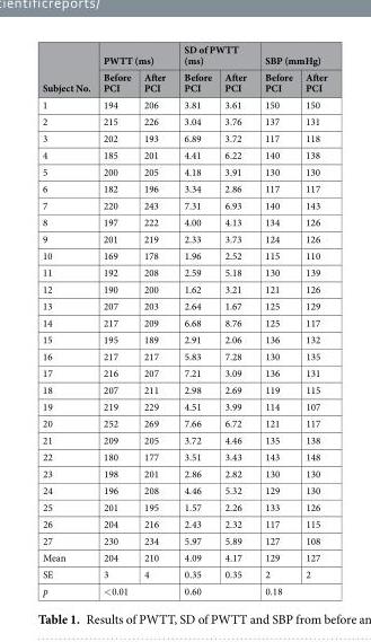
<table><thead><tr><td rowspan="2">Subject No.</td><td colspan="2">PWTT (ms)</td><td colspan="2">SD of PWTT (ms)</td><td colspan="2">SBP (mmHg)</td></tr><tr><td>Before PCI</td><td>After PCI</td><td>Before PCI</td><td>After PCI</td><td>Before PCI</td><td>After PCI</td></tr></thead><tbody><tr><td>1</td><td>194</td><td>206</td><td>3.81</td><td>3.61</td><td>150</td><td>150</td></tr><tr><td>2</td><td>215</td><td>226</td><td>3.04</td><td>3.76</td><td>137</td><td>131</td></tr><tr><td>3</td><td>202</td><td>193</td><td>6.89</td><td>3.72</td><td>117</td><td>118</td></tr><tr><td>4</td><td>185</td><td>201</td><td>4.41</td><td>6.22</td><td>140</td><td>138</td></tr><tr><td>5</td><td>200</td><td>205</td><td>4.18</td><td>3.91</td><td>130</td><td>130</td></tr><tr><td>6</td><td>182</td><td>196</td><td>3.34</td><td>2.86</td><td>117</td><td>117</td></tr><tr><td>7</td><td>220</td><td>243</td><td>7.31</td><td>6.93</td><td>140</td><td>143</td></tr><tr><td>8</td><td>197</td><td>222</td><td>4.00</td><td>4.13</td><td>134</td><td>126</td></tr><tr><td>9</td><td>201</td><td>219</td><td>2.33</td><td>3.73</td><td>124</td><td>126</td></tr><tr><td>10</td><td>169</td><td>178</td><td>1.96</td><td>2.52</td><td>115</td><td>110</td></tr><tr><td>11</td><td>192</td><td>208</td><td>2.59</td><td>5.18</td><td>130</td><td>139</td></tr><tr><td>12</td><td>190</td><td>200</td><td>1.62</td><td>3.21</td><td>121</td><td>126</td></tr><tr><td>13</td><td>207</td><td>203</td><td>2.64</td><td>1.67</td><td>125</td><td>129</td></tr><tr><td>14</td><td>217</td><td>209</td><td>6.68</td><td>8.76</td><td>125</td><td>117</td></tr><tr><td>15</td><td>195</td><td>189</td><td>2.91</td><td>2.06</td><td>136</td><td>132</td></tr><tr><td>16</td><td>217</td><td>217</td><td>5.83</td><td>7.28</td><td>130</td><td>135</td></tr><tr><td>17</td><td>216</td><td>207</td><td>7.21</td><td>3.09</td><td>136</td><td>131</td></tr><tr><td>18</td><td>207</td><td>211</td><td>2.98</td><td>2.69</td><td>119</td><td>115</td></tr><tr><td>19</td><td>219</td><td>229</td><td>4.51</td><td>3.99</td><td>114</td><td>107</td></tr><tr><td>20</td><td>252</td><td>269</td><td>7.66</td><td>6.72</td><td>121</td><td>117</td></tr><tr><td>21</td><td>209</td><td>205</td><td>3.72</td><td>4.46</td><td>135</td><td>138</td></tr><tr><td>22</td><td>180</td><td>177</td><td>3.51</td><td>3.43</td><td>143</td><td>148</td></tr><tr><td>23</td><td>198</td><td>201</td><td>2.86</td><td>2.82</td><td>130</td><td>130</td></tr><tr><td>24</td><td>196</td><td>208</td><td>4.46</td><td>5.32</td><td>129</td><td>130</td></tr><tr><td>25</td><td>201</td><td>195</td><td>1.57</td><td>2.26</td><td>133</td><td>126</td></tr><tr><td>26</td><td>204</td><td>216</td><td>2.43</td><td>2.32</td><td>117</td><td>115</td></tr><tr><td>27</td><td>230</td><td>234</td><td>5.97</td><td>5.89</td><td>127</td><td>108</td></tr><tr><td>Mean</td><td>204</td><td>210</td><td>4.09</td><td>4.17</td><td>129</td><td>127</td></tr><tr><td>SE</td><td>3</td><td>4</td><td>0.35</td><td>0.35</td><td>2</td><td>2</td></tr><tr><td>p</td><td colspan="2">&lt;0.01</td><td colspan="2">0.60</td><td colspan="2">0.18</td></tr></tbody></table>